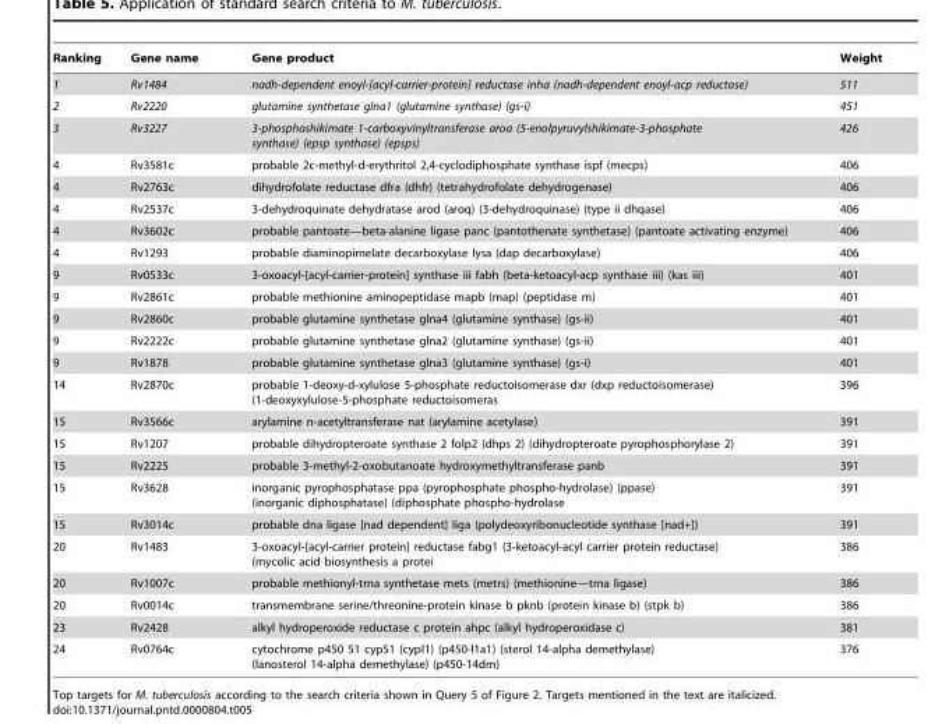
<table><thead><tr><td>Ranking</td><td>Gene name</td><td>Gene product</td><td>Weight</td></tr></thead><tbody><tr><td>1</td><td>Rv1484</td><td>nadh-dependent enoyl-[acyl-carrier-protein] reductase inha (nadh-dependent enoyl-acp reductase)</td><td>511</td></tr><tr><td>2</td><td>Rv2220</td><td>glutamine synthetase glna1 (glutamine synthase) (gs-i)</td><td>451</td></tr><tr><td>3</td><td>Rv3227</td><td>3-phosphoshikimate 1-carboxyvinyltransferase aroa (5-enolpyruvylshikimate-3-phosphate synthase) (epsp synthase) (epsps)</td><td>426</td></tr><tr><td>4</td><td>Rv3581c</td><td>probable 2c-methyl-d-erythritol 2,4-cyclodiphosphate synthase ispf (mecps)</td><td>406</td></tr><tr><td>4</td><td>Rv2763c</td><td>dihydrofolate reductase dfra (dhfr) (tetrahydrofolate dehydrogenase)</td><td>406</td></tr><tr><td>4</td><td>Rv2537c</td><td>3-dehydroquinate dehydratase arod (aroq) (3-dehydroquinase) (type ii dhqase)</td><td>406</td></tr><tr><td>4</td><td>Rv3602c</td><td>probable pantoate—beta-alanine ligase panc (pantothenate synthetase) (pantoate activating enzyme)</td><td>406</td></tr><tr><td>4</td><td>Rv1293</td><td>probable diaminopimelate decarboxylase lysa (dap decarboxylase)</td><td>406</td></tr><tr><td>9</td><td>Rv0533c</td><td>3-oxoacyl-[acyl-carrier-protein] synthase iii fabh (beta-ketoacyl-acp synthase iii) (kas iii)</td><td>401</td></tr><tr><td>9</td><td>Rv2861c</td><td>probable methionine aminopeptidase mapb (map) (peptidase m)</td><td>401</td></tr><tr><td>9</td><td>Rv2860c</td><td>probable glutamine synthetase glna4 (glutamine synthase) (gs-ii)</td><td>401</td></tr><tr><td>9</td><td>Rv2222c</td><td>probable glutamine synthetase glna2 (glutamine synthase) (gs-ii)</td><td>401</td></tr><tr><td>9</td><td>Rv1878</td><td>probable glutamine synthetase glna3 (glutamine synthase) (gs-i)</td><td>401</td></tr><tr><td>14</td><td>Rv2870c</td><td>probable 1-deoxy-d-xylulose 5-phosphate reductoisomerase dxr (dxp reductoisomerase) (1-deoxyxylulose-5-phosphate reductoisomeras</td><td>396</td></tr><tr><td>15</td><td>Rv3566c</td><td>arylamine n-acetyltransferase nat (arylamine acetylase)</td><td>391</td></tr><tr><td>15</td><td>Rv1207</td><td>probable dihydropteroate synthase 2 folp2 (dhps 2) (dihydropteroate pyrophosphorylase 2)</td><td>391</td></tr><tr><td>15</td><td>Rv2225</td><td>probable 3-methyl-2-oxobutanoate hydroxymethyltransferase panb</td><td>391</td></tr><tr><td>15</td><td>Rv3628</td><td>inorganic pyrophosphatase ppa (pyrophosphate phospho-hydrolase) (ppase) (inorganic diphosphatase) (diphosphate phospho-hydrolase</td><td>391</td></tr><tr><td>15</td><td>Rv3014c</td><td>probable dna ligase [nad dependent] liga (polydeoxyribonucleotide synthase [nad+])</td><td>391</td></tr><tr><td>20</td><td>Rv1483</td><td>3-oxoacyl-[acyl-carrier protein] reductase fabg1 (3-ketoacyl-acyl carrier protein reductase) (mycolic acid biosynthesis a protei</td><td>386</td></tr><tr><td>20</td><td>Rv1007c</td><td>probable methionyl-trna synthetase mets (metrs) (methionine—trna ligase)</td><td>386</td></tr><tr><td>20</td><td>Rv0014c</td><td>transmembrane serine/threonine-protein kinase b pknb (protein kinase b) (stpk b)</td><td>386</td></tr><tr><td>23</td><td>Rv2428</td><td>alkyl hydroperoxide reductase c protein ahpc (alkyl hydroperoxidase c)</td><td>381</td></tr><tr><td>24</td><td>Rv0764c</td><td>cytochrome p450 51 cyp51 (cypl1) (p450-l1a1) (sterol 14-alpha demethylase) (lanosterol 14-alpha demethylase) (p450-14dm)</td><td>376</td></tr></tbody></table>